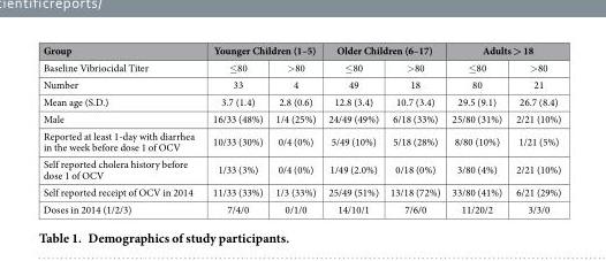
<table><thead><tr><td rowspan="2">Group Baseline Vibriocidal Titer</td><td colspan="2">Younger Children (1–5)</td><td colspan="2">Older Children (6–17)</td><td colspan="2">Adults &gt; 18</td></tr><tr><td>≤ 80</td><td>&gt; 80</td><td>≤ 80</td><td>&gt; 80</td><td>≤ 80</td><td>&gt; 80</td></tr></thead><tbody><tr><td>Number</td><td>33</td><td>4</td><td>49</td><td>18</td><td>80</td><td>21</td></tr><tr><td>Mean age (S.D.)</td><td>3.7 (1.4)</td><td>2.8 (0.6)</td><td>12.8 (3.4)</td><td>10.7 (3.4)</td><td>29.5 (9.1)</td><td>26.7 (8.4)</td></tr><tr><td>Male</td><td>16/33 (48%)</td><td>1/4 (25%)</td><td>24/49 (49%)</td><td>6/18 (33%)</td><td>25/80 (31%)</td><td>2/21 (10%)</td></tr><tr><td>Reported at least 1-day with diarrhea in the week before dose 1 of OCV</td><td>10/33 (30%)</td><td>0/4 (0%)</td><td>5/49 (10%)</td><td>5/18 (28%)</td><td>8/80 (10%)</td><td>1/21 (5%)</td></tr><tr><td>Self reported cholera history before dose 1 of OCV</td><td>1/33 (3%)</td><td>0/4 (0%)</td><td>1/49 (2.0%)</td><td>0/18 (0%)</td><td>3/80 (4%)</td><td>2/21 (10%)</td></tr><tr><td>Self reported receipt of OCV in 2014</td><td>11/33 (33%)</td><td>1/3 (33%)</td><td>25/49 (51%)</td><td>13/18 (72%)</td><td>33/80 (41%)</td><td>6/21 (29%)</td></tr><tr><td>Doses in 2014 (1/2/3)</td><td>7/4/0</td><td>0/1/0</td><td>14/10/1</td><td>7/6/0</td><td>11/20/2</td><td>3/3/0</td></tr></tbody></table>